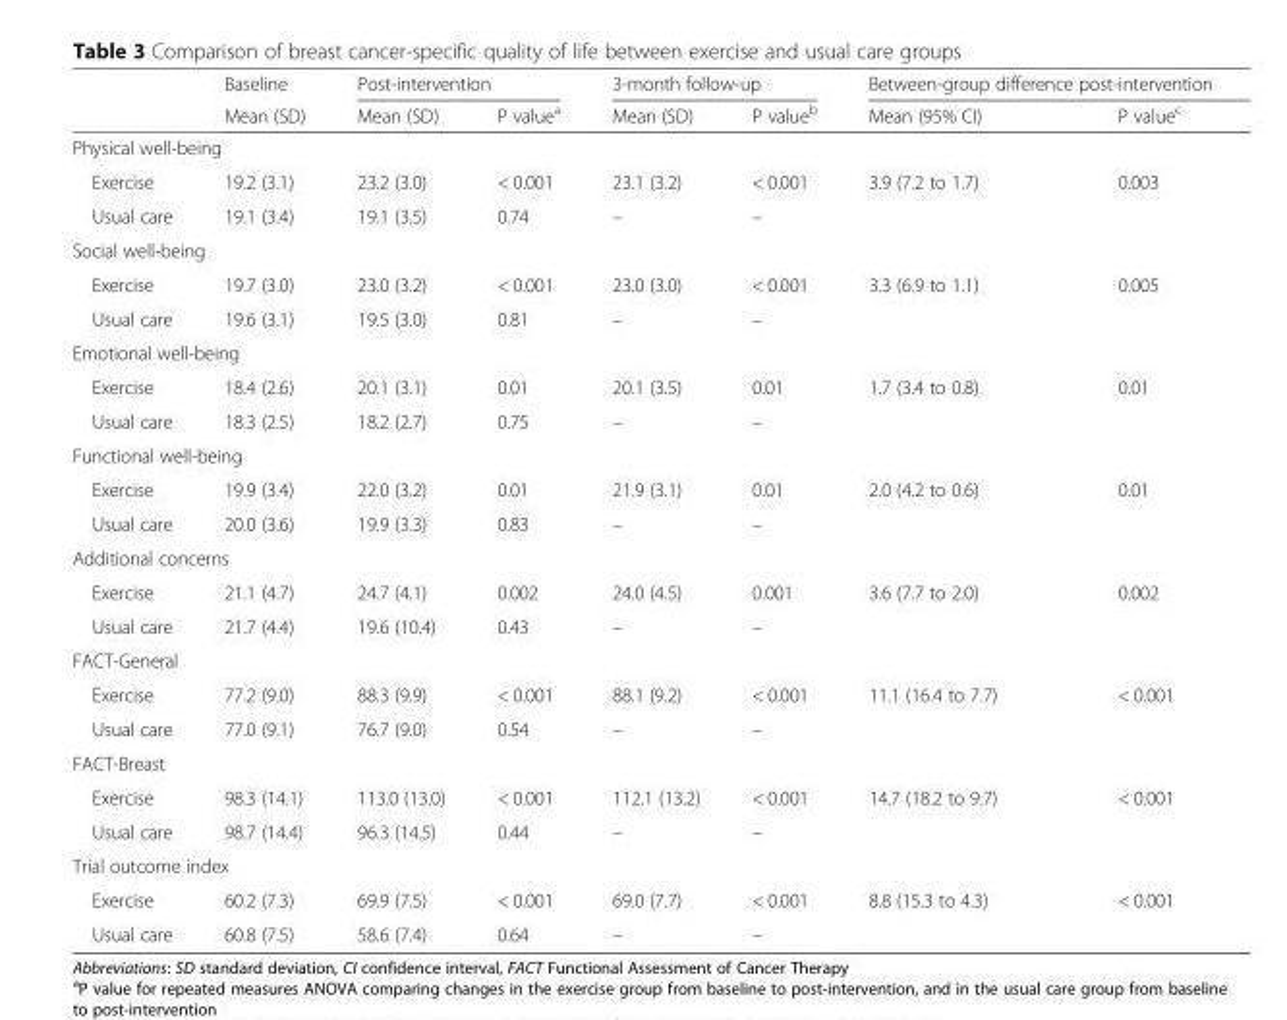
<table><thead><tr><td rowspan="2"></td><td rowspan="2">Baseline Mean (SD)</td><td colspan="2">Post-intervention</td><td colspan="2">3-month follow-up</td><td colspan="2">Between-group difference post-intervention</td></tr><tr><td>Mean (SD)</td><td>P value<sup>a</sup></td><td>Mean (SD)</td><td>P value<sup>b</sup></td><td>Mean (95% CI)</td><td>P value<sup>c</sup></td></tr></thead><tbody><tr><td colspan="8">Physical well-being</td></tr><tr><td>Exercise</td><td>19.2 (3.1)</td><td>23.2 (3.0)</td><td>&lt; 0.001</td><td>23.1 (3.2)</td><td>&lt; 0.001</td><td rowspan="2">3.9 (7.2 to 1.7)</td><td rowspan="2">0.003</td></tr><tr><td>Usual care</td><td>19.1 (3.4)</td><td>19.1 (3.5)</td><td>0.74</td><td>–</td><td>–</td></tr><tr><td colspan="8">Social well-being</td></tr><tr><td>Exercise</td><td>19.7 (3.0)</td><td>23.0 (3.2)</td><td>&lt; 0.001</td><td>23.0 (3.0)</td><td>&lt; 0.001</td><td rowspan="2">3.3 (6.9 to 1.1)</td><td rowspan="2">0.005</td></tr><tr><td>Usual care</td><td>19.6 (3.1)</td><td>19.5 (3.0)</td><td>0.81</td><td>–</td><td>–</td></tr><tr><td colspan="8">Emotional well-being</td></tr><tr><td>Exercise</td><td>18.4 (2.6)</td><td>20.1 (3.1)</td><td>0.01</td><td>20.1 (3.5)</td><td>0.01</td><td rowspan="2">1.7 (3.4 to 0.8)</td><td rowspan="2">0.01</td></tr><tr><td>Usual care</td><td>18.3 (2.5)</td><td>18.2 (2.7)</td><td>0.75</td><td>–</td><td>–</td></tr><tr><td colspan="8">Functional well-being</td></tr><tr><td>Exercise</td><td>19.9 (3.4)</td><td>22.0 (3.2)</td><td>0.01</td><td>21.9 (3.1)</td><td>0.01</td><td rowspan="2">2.0 (4.2 to 0.6)</td><td rowspan="2">0.01</td></tr><tr><td>Usual care</td><td>20.0 (3.6)</td><td>19.9 (3.3)</td><td>0.83</td><td>–</td><td>–</td></tr><tr><td colspan="8">Additional concerns</td></tr><tr><td>Exercise</td><td>21.1 (4.7)</td><td>24.7 (4.1)</td><td>0.002</td><td>24.0 (4.5)</td><td>0.001</td><td rowspan="2">3.6 (7.7 to 2.0)</td><td rowspan="2">0.002</td></tr><tr><td>Usual care</td><td>21.7 (4.4)</td><td>19.6 (10.4)</td><td>0.43</td><td>–</td><td>–</td></tr><tr><td colspan="8">FACT-General</td></tr><tr><td>Exercise</td><td>77.2 (9.0)</td><td>88.3 (9.9)</td><td>&lt; 0.001</td><td>88.1 (9.2)</td><td>&lt; 0.001</td><td rowspan="2">11.1 (16.4 to 7.7)</td><td rowspan="2">&lt; 0.001</td></tr><tr><td>Usual care</td><td>77.0 (9.1)</td><td>76.7 (9.0)</td><td>0.54</td><td>–</td><td>–</td></tr><tr><td colspan="8">FACT-Breast</td></tr><tr><td>Exercise</td><td>98.3 (14.1)</td><td>113.0 (13.0)</td><td>&lt; 0.001</td><td>112.1 (13.2)</td><td>&lt; 0.001</td><td rowspan="2">14.7 (18.2 to 9.7)</td><td rowspan="2">&lt; 0.001</td></tr><tr><td>Usual care</td><td>98.7 (14.4)</td><td>96.3 (14.5)</td><td>0.44</td><td>–</td><td>–</td></tr><tr><td colspan="8">Trial outcome index</td></tr><tr><td>Exercise</td><td>60.2 (7.3)</td><td>69.9 (7.5)</td><td>&lt; 0.001</td><td>69.0 (7.7)</td><td>&lt; 0.001</td><td rowspan="2">8.8 (15.3 to 4.3)</td><td rowspan="2">&lt; 0.001</td></tr><tr><td>Usual care</td><td>60.8 (7.5)</td><td>58.6 (7.4)</td><td>0.64</td><td>–</td><td>–</td></tr></tbody></table>